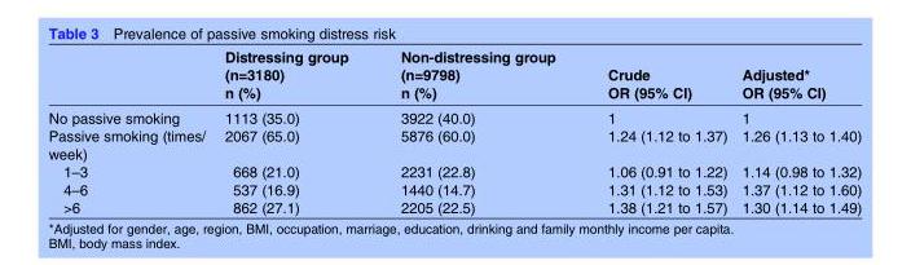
<table><thead><tr><td></td><td>Distressing group (n=3180) n (%)</td><td>Non-distressing group (n=9798) n (%)</td><td>Crude OR (95% CI)</td><td>Adjusted* OR (95% CI)</td></tr></thead><tbody><tr><td>No passive smoking</td><td>1113 (35.0)</td><td>3922 (40.0)</td><td>1</td><td>1</td></tr><tr><td>Passive smoking (times/ week)</td><td>2067 (65.0)</td><td>5876 (60.0)</td><td>1.24 (1.12 to 1.37)</td><td>1.26 (1.13 to 1.40)</td></tr><tr><td>1–3</td><td>668 (21.0)</td><td>2231 (22.8)</td><td>1.06 (0.91 to 1.22)</td><td>1.14 (0.98 to 1.32)</td></tr><tr><td>4–6</td><td>537 (16.9)</td><td>1440 (14.7)</td><td>1.31 (1.12 to 1.53)</td><td>1.37 (1.12 to 1.60)</td></tr><tr><td>&gt;6</td><td>862 (27.1)</td><td>2205 (22.5)</td><td>1.38 (1.21 to 1.57)</td><td>1.30 (1.14 to 1.49)</td></tr></tbody></table>